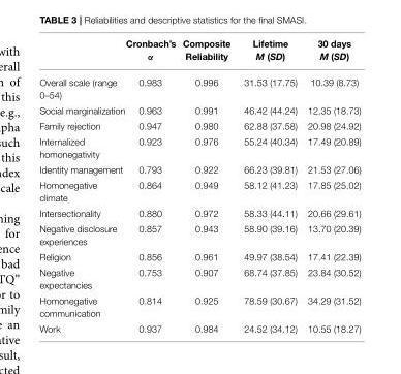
<table><thead><tr><td></td><td>Cronbach’s α</td><td>Composite Reliability</td><td>Lifetime M (SD)</td><td>30 days M (SD)</td></tr></thead><tbody><tr><td>Overall scale (range 0–54)</td><td>0.983</td><td>0.996</td><td>31.53 (17.75)</td><td>10.39 (8.73)</td></tr><tr><td>Social marginalization</td><td>0.963</td><td>0.991</td><td>46.42 (44.24)</td><td>12.35 (18.73)</td></tr><tr><td>Family rejection</td><td>0.947</td><td>0.980</td><td>62.88 (37.58)</td><td>20.98 (24.92)</td></tr><tr><td>Internalized homonegativity</td><td>0.923</td><td>0.976</td><td>55.24 (40.34)</td><td>17.49 (20.89)</td></tr><tr><td>Identity management</td><td>0.793</td><td>0.922</td><td>66.23 (39.81)</td><td>21.53 (27.06)</td></tr><tr><td>Homonegative climate</td><td>0.864</td><td>0.949</td><td>58.12 (41.23)</td><td>17.85 (25.02)</td></tr><tr><td>Intersectionality</td><td>0.880</td><td>0.972</td><td>58.33 (44.11)</td><td>20.66 (29.61)</td></tr><tr><td>Negative disclosure experiences</td><td>0.857</td><td>0.943</td><td>58.90 (39.16)</td><td>13.70 (20.39)</td></tr><tr><td>Religion</td><td>0.856</td><td>0.961</td><td>49.97 (38.54)</td><td>17.41 (22.39)</td></tr><tr><td>Negative expectancies</td><td>0.753</td><td>0.907</td><td>68.74 (37.85)</td><td>23.84 (30.52)</td></tr><tr><td>Homonegative communication</td><td>0.814</td><td>0.925</td><td>78.59 (30.67)</td><td>34.29 (31.52)</td></tr><tr><td>Work</td><td>0.937</td><td>0.984</td><td>24.52 (34.12)</td><td>10.55 (18.27)</td></tr></tbody></table>